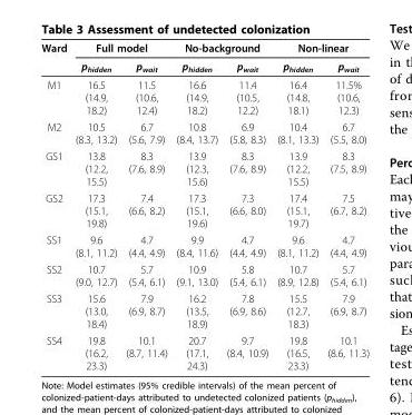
<table><thead><tr><td rowspan="2">Ward</td><td colspan="2">Full model</td><td colspan="2">No-background</td><td colspan="2">Non-linear</td></tr><tr><td>p<sub>hidden</sub></td><td>p<sub>wait</sub></td><td>p<sub>hidden</sub></td><td>p<sub>wait</sub></td><td>p<sub>hidden</sub></td><td>p<sub>wait</sub></td></tr></thead><tbody><tr><td>M1</td><td>16.5 (14.9, 18.2)</td><td>11.5 (10.6, 12.4)</td><td>16.6 (14.9, 18.2)</td><td>11.4 (10.5, 12.2)</td><td>16.4 (14.8, 18.1)</td><td>11.5% (10.6, 12.3)</td></tr><tr><td>M2</td><td>10.5 (8.3, 13.2)</td><td>6.7 (5.6, 7.9)</td><td>10.8 (8.4, 13.7)</td><td>6.9 (5.8, 8.3)</td><td>10.4 (8.1, 13.3)</td><td>6.7 (5.5, 8.0)</td></tr><tr><td>GS1</td><td>13.8 (12.2, 15.5)</td><td>8.3 (7.6, 8.9)</td><td>13.9 (12.3, 15.6)</td><td>8.3 (7.6, 8.9)</td><td>13.9 (12.2, 15.5)</td><td>8.3 (7.5, 8.9)</td></tr><tr><td>GS2</td><td>17.3 (15.1, 19.8)</td><td>7.4 (6.6, 8.2)</td><td>17.3 (15.1, 19.6)</td><td>7.3 (6.6, 8.0)</td><td>17.4 (15.1, 19.7)</td><td>7.5 (6.7, 8.2)</td></tr><tr><td>SS1</td><td>9.6 (8.1, 11.2)</td><td>4.7 (4.4, 4.9)</td><td>9.9 (8.4, 11.6)</td><td>4.7 (4.4, 4.9)</td><td>9.6 (8.1, 11.2)</td><td>4.7 (4.4, 4.9)</td></tr><tr><td>SS2</td><td>10.7 (9.0, 12.7)</td><td>5.7 (5.4, 6.1)</td><td>10.9 (9.1, 13.0)</td><td>5.8 (5.4, 6.1)</td><td>10.7 (8.9, 12.8)</td><td>5.7 (5.4, 6.1)</td></tr><tr><td>SS3</td><td>15.6 (13.0, 18.4)</td><td>7.9 (6.9, 8.7)</td><td>16.2 (13.5, 18.9)</td><td>7.8 (6.9, 8.6)</td><td>15.5 (12.7, 18.3)</td><td>7.9 (6.9, 8.7)</td></tr><tr><td>SS4</td><td>19.8 (16.2, 23.3)</td><td>10.1 (8.7, 11.4)</td><td>20.7 (17.1, 24.3)</td><td>9.7 (8.4, 10.9)</td><td>19.8 (16.5, 23.3)</td><td>10.1 (8.6, 11.3)</td></tr></tbody></table>